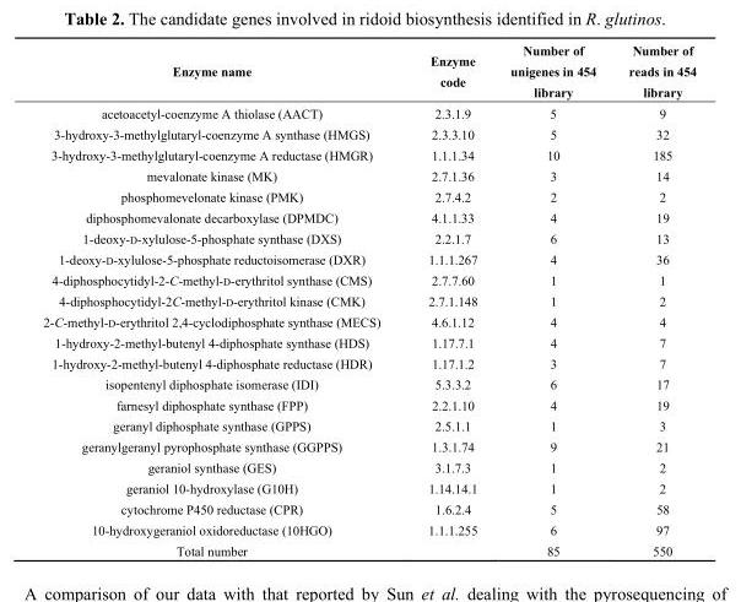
<table><thead><tr><td>Enzyme name</td><td>Enzyme code</td><td>Number of unigenes in 454 library</td><td>Number of reads in 454 library</td></tr></thead><tbody><tr><td>acetoacetyl-coenzyme A thiolase (AACT)</td><td>2.3.1.9</td><td>5</td><td>9</td></tr><tr><td>3-hydroxy-3-methylglutaryl-coenzyme A synthase (HMGS)</td><td>2.3.3.10</td><td>5</td><td>32</td></tr><tr><td>3-hydroxy-3-methylglutaryl-coenzyme A reductase (HMGR)</td><td>1.1.1.34</td><td>10</td><td>185</td></tr><tr><td>mevalonate kinase (MK)</td><td>2.7.1.36</td><td>3</td><td>14</td></tr><tr><td>phosphomevelonate kinase (PMK)</td><td>2.7.4.2</td><td>2</td><td>2</td></tr><tr><td>diphosphomevalonate decarboxylase (DPMDC)</td><td>4.1.1.33</td><td>4</td><td>19</td></tr><tr><td>1-deoxy-D-xylulose-5-phosphate synthase (DXS)</td><td>2.2.1.7</td><td>6</td><td>13</td></tr><tr><td>1-deoxy-D-xylulose-5-phosphate reductoisomerase (DXR)</td><td>1.1.1.267</td><td>4</td><td>36</td></tr><tr><td>4-diphosphocytidyl-2-C-methyl-D-erythritol synthase (CMS)</td><td>2.7.7.60</td><td>1</td><td>1</td></tr><tr><td>4-diphosphocytidyl-2C-methyl-D-erythritol kinase (CMK)</td><td>2.7.1.148</td><td>1</td><td>2</td></tr><tr><td>2-C-methyl-D-erythritol 2,4-cyclodiphosphate synthase (MECS)</td><td>4.6.1.12</td><td>4</td><td>4</td></tr><tr><td>1-hydroxy-2-methyl-butenyl 4-diphosphate synthase (HDS)</td><td>1.17.7.1</td><td>4</td><td>7</td></tr><tr><td>1-hydroxy-2-methyl-butenyl 4-diphosphate reductase (HDR)</td><td>1.17.1.2</td><td>3</td><td>7</td></tr><tr><td>isopentenyl diphosphate isomerase (IDI)</td><td>5.3.3.2</td><td>6</td><td>17</td></tr><tr><td>farnesyl diphosphate synthase (FPP)</td><td>2.2.1.10</td><td>4</td><td>19</td></tr><tr><td>geranyl diphosphate synthase (GPPS)</td><td>2.5.1.1</td><td>1</td><td>3</td></tr><tr><td>geranylgeranyl pyrophosphate synthase (GGPPS)</td><td>1.3.1.74</td><td>9</td><td>21</td></tr><tr><td>geraniol synthase (GES)</td><td>3.1.7.3</td><td>1</td><td>2</td></tr><tr><td>geraniol 10-hydroxylase (G10H)</td><td>1.14.14.1</td><td>1</td><td>2</td></tr><tr><td>cytochrome P450 reductase (CPR)</td><td>1.6.2.4</td><td>5</td><td>58</td></tr><tr><td>10-hydroxygeraniol oxidoreductase (10HGO)</td><td>1.1.1.255</td><td>6</td><td>97</td></tr><tr><td>Total number</td><td></td><td>85</td><td>550</td></tr></tbody></table>